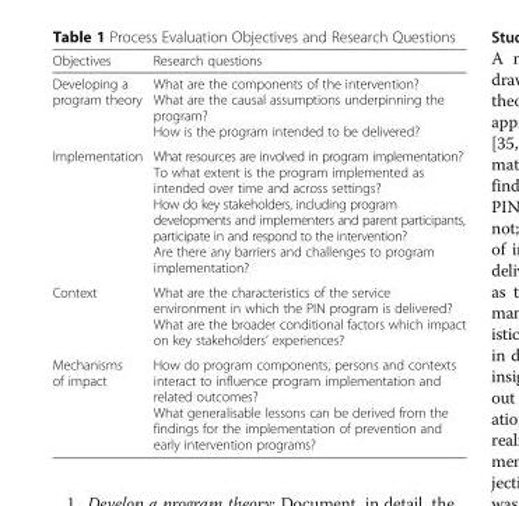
<table><thead><tr><td>Objectives</td><td>Research questions</td></tr></thead><tbody><tr><td>Developing a program theory</td><td>What are the components of the intervention? What are the causal assumptions underpinning the program? How is the program intended to be delivered?</td></tr><tr><td>Implementation</td><td>What resources are involved in program implementation? To what extent is the program implemented as intended over time and across settings? How do key stakeholders, including program developments and implementers and parent participants, participate in and respond to the intervention? Are there any barriers and challenges to program implementation?</td></tr><tr><td>Context</td><td>What are the characteristics of the service environment in which the PIN program is delivered? What are the broader conditional factors which impact on key stakeholders’ experiences?</td></tr><tr><td>Mechanisms of impact</td><td>How do program components, persons and contexts interact to influence program implementation and related outcomes? What generalisable lessons can be derived from the findings for the implementation of prevention and early intervention programs?</td></tr></tbody></table>